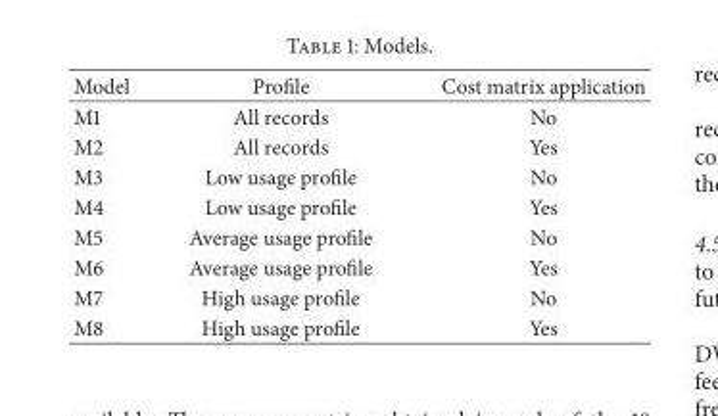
<table><thead><tr><td>Model</td><td>Profile</td><td>Cost matrix application</td></tr></thead><tbody><tr><td>M1</td><td>All records</td><td>No</td></tr><tr><td>M2</td><td>All records</td><td>Yes</td></tr><tr><td>M3</td><td>Low usage profile</td><td>No</td></tr><tr><td>M4</td><td>Low usage profile</td><td>Yes</td></tr><tr><td>M5</td><td>Average usage profile</td><td>No</td></tr><tr><td>M6</td><td>Average usage profile</td><td>Yes</td></tr><tr><td>M7</td><td>High usage profile</td><td>No</td></tr><tr><td>M8</td><td>High usage profile</td><td>Yes</td></tr></tbody></table>